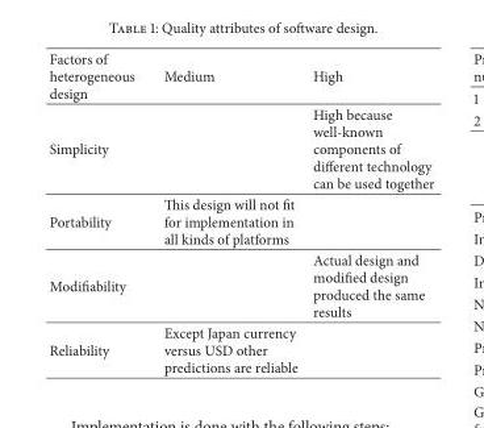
<table><thead><tr><td>Factors of heterogeneous design</td><td>Medium</td><td>High</td></tr></thead><tbody><tr><td>Simplicity</td><td></td><td>High because well-known components of different technology can be used together</td></tr><tr><td>Portability</td><td>This design will not fit for implementation in all kinds of platforms</td><td></td></tr><tr><td>Modifiability</td><td></td><td>Actual design and modified design produced the same results</td></tr><tr><td>Reliability</td><td>Except Japan currency versus USD other predictions are reliable</td><td></td></tr></tbody></table>